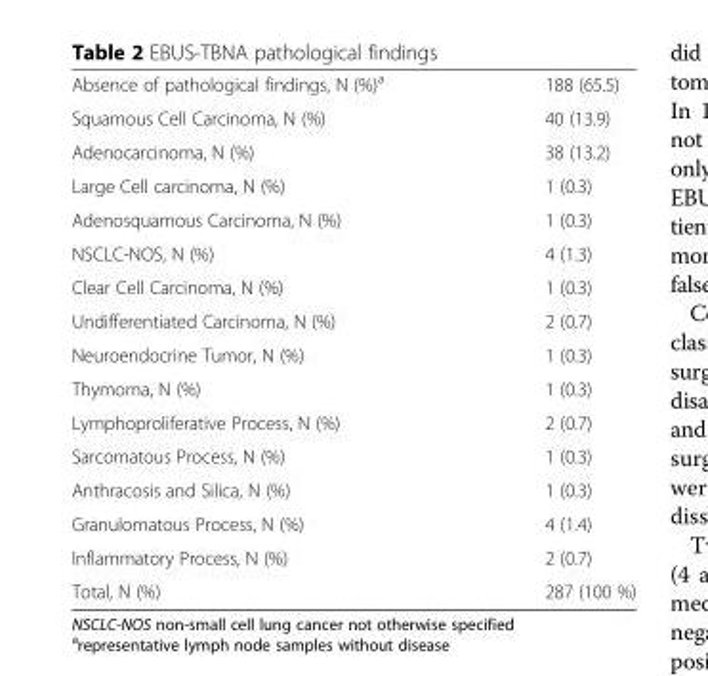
<table><tbody><tr><td>Absence of pathological findings, N (%)<sup>a</sup></td><td>188 (65.5)</td></tr><tr><td>Squamous Cell Carcinoma, N (%)</td><td>40 (13.9)</td></tr><tr><td>Adenocarcinoma, N (%)</td><td>38 (13.2)</td></tr><tr><td>Large Cell carcinoma, N (%)</td><td>1 (0.3)</td></tr><tr><td>Adenosquamous Carcinoma, N (%)</td><td>1 (0.3)</td></tr><tr><td>NSCLC-NOS, N (%)</td><td>4 (1.3)</td></tr><tr><td>Clear Cell Carcinoma, N (%)</td><td>1 (0.3)</td></tr><tr><td>Undifferentiated Carcinoma, N (%)</td><td>2 (0.7)</td></tr><tr><td>Neuroendocrine Tumor, N (%)</td><td>1 (0.3)</td></tr><tr><td>Thymoma, N (%)</td><td>1 (0.3)</td></tr><tr><td>Lymphoproliferative Process, N (%)</td><td>2 (0.7)</td></tr><tr><td>Sarcomatous Process, N (%)</td><td>1 (0.3)</td></tr><tr><td>Anthracosis and Silica, N (%)</td><td>1 (0.3)</td></tr><tr><td>Granulomatous Process, N (%)</td><td>4 (1.4)</td></tr><tr><td>Inflammatory Process, N (%)</td><td>2 (0.7)</td></tr><tr><td>Total, N (%)</td><td>287 (100 %)</td></tr></tbody></table>